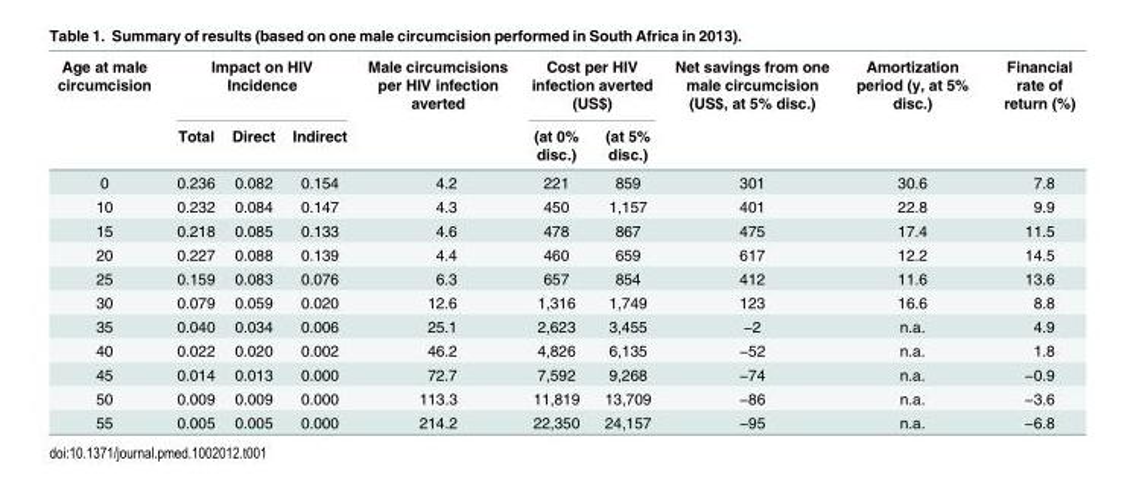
<table><thead><tr><td rowspan="2">Age at male circumcision</td><td colspan="3">Impact on HIV Incidence</td><td rowspan="2">Male circumcisions per HIV infection averted</td><td colspan="2">Cost per HIV infection averted (US$)</td><td rowspan="2">Net savings from one male circumcision (US$, at 5% disc.)</td><td rowspan="2">Amortization period (y, at 5% disc.)</td><td rowspan="2">Financial rate of return (%)</td></tr><tr><td>Total</td><td>Direct</td><td>Indirect</td><td>(at 0% disc.)</td><td>(at 5% disc.)</td></tr></thead><tbody><tr><td>0</td><td>0.236</td><td>0.082</td><td>0.154</td><td>4.2</td><td>221</td><td>859</td><td>301</td><td>30.6</td><td>7.8</td></tr><tr><td>10</td><td>0.232</td><td>0.084</td><td>0.147</td><td>4.3</td><td>450</td><td>1,157</td><td>401</td><td>22.8</td><td>9.9</td></tr><tr><td>15</td><td>0.218</td><td>0.085</td><td>0.133</td><td>4.6</td><td>478</td><td>867</td><td>475</td><td>17.4</td><td>11.5</td></tr><tr><td>20</td><td>0.227</td><td>0.088</td><td>0.139</td><td>4.4</td><td>460</td><td>659</td><td>617</td><td>12.2</td><td>14.5</td></tr><tr><td>25</td><td>0.159</td><td>0.083</td><td>0.076</td><td>6.3</td><td>657</td><td>854</td><td>412</td><td>11.6</td><td>13.6</td></tr><tr><td>30</td><td>0.079</td><td>0.059</td><td>0.020</td><td>12.6</td><td>1,316</td><td>1,749</td><td>123</td><td>16.6</td><td>8.8</td></tr><tr><td>35</td><td>0.040</td><td>0.034</td><td>0.006</td><td>25.1</td><td>2,623</td><td>3,455</td><td>−2</td><td>n.a.</td><td>4.9</td></tr><tr><td>40</td><td>0.022</td><td>0.020</td><td>0.002</td><td>46.2</td><td>4,826</td><td>6,135</td><td>−52</td><td>n.a.</td><td>1.8</td></tr><tr><td>45</td><td>0.014</td><td>0.013</td><td>0.000</td><td>72.7</td><td>7,592</td><td>9,268</td><td>−74</td><td>n.a.</td><td>−0.9</td></tr><tr><td>50</td><td>0.009</td><td>0.009</td><td>0.000</td><td>113.3</td><td>11,819</td><td>13,709</td><td>−86</td><td>n.a.</td><td>−3.6</td></tr><tr><td>55</td><td>0.005</td><td>0.005</td><td>0.000</td><td>214.2</td><td>22,350</td><td>24,157</td><td>−95</td><td>n.a.</td><td>−6.8</td></tr></tbody></table>